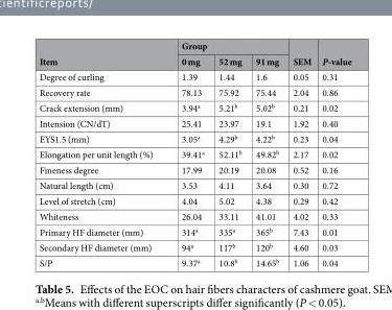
<table><thead><tr><td rowspan="2">Item</td><td colspan="3">Group</td><td rowspan="2">SEM</td><td rowspan="2">P-value</td></tr><tr><td>0 mg</td><td>52 mg</td><td>91 mg</td></tr></thead><tbody><tr><td>Degree of curling</td><td>1.39</td><td>1.44</td><td>1.6</td><td>0.05</td><td>0.31</td></tr><tr><td>Recovery rate</td><td>78.13</td><td>75.92</td><td>75.44</td><td>2.04</td><td>0.86</td></tr><tr><td>Crack extension (mm)</td><td>3.94<sup>a</sup></td><td>5.21<sup>b</sup></td><td>5.02<sup>b</sup></td><td>0.21</td><td>0.02</td></tr><tr><td>Intension (CN/dT)</td><td>25.41</td><td>23.97</td><td>19.1</td><td>1.92</td><td>0.40</td></tr><tr><td>EYS1.5 (mm)</td><td>3.05<sup>a</sup></td><td>4.29<sup>b</sup></td><td>4.22<sup>b</sup></td><td>0.23</td><td>0.04</td></tr><tr><td>Elongation per unit length (%)</td><td>39.41<sup>a</sup></td><td>52.11<sup>b</sup></td><td>49.82<sup>b</sup></td><td>2.17</td><td>0.02</td></tr><tr><td>Fineness degree</td><td>17.99</td><td>20.19</td><td>20.08</td><td>0.52</td><td>0.16</td></tr><tr><td>Natural length (cm)</td><td>3.53</td><td>4.11</td><td>3.64</td><td>0.30</td><td>0.72</td></tr><tr><td>Level of stretch (cm)</td><td>4.04</td><td>5.02</td><td>4.38</td><td>0.29</td><td>0.42</td></tr><tr><td>Whiteness</td><td>26.04</td><td>33.11</td><td>41.01</td><td>4.02</td><td>0.33</td></tr><tr><td>Primary HF diameter (mm)</td><td>314<sup>a</sup></td><td>335<sup>a</sup></td><td>365<sup>b</sup></td><td>7.43</td><td>0.01</td></tr><tr><td>Secondary HF diameter (mm)</td><td>94<sup>a</sup></td><td>117<sup>b</sup></td><td>120<sup>b</sup></td><td>4.60</td><td>0.03</td></tr><tr><td>S/P</td><td>9.37<sup>a</sup></td><td>10.8<sup>b</sup></td><td>14.65<sup>b</sup></td><td>1.06</td><td>0.04</td></tr></tbody></table>